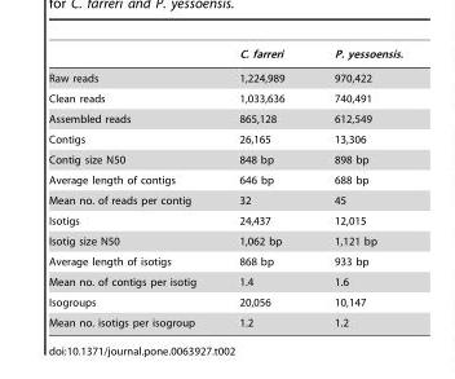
<table><thead><tr><td></td><td>C. farreri</td><td>P. yessoensis.</td></tr></thead><tbody><tr><td>Raw reads</td><td>1,224,989</td><td>970,422</td></tr><tr><td>Clean reads</td><td>1,033,636</td><td>740,491</td></tr><tr><td>Assembled reads</td><td>865,128</td><td>612,549</td></tr><tr><td>Contigs</td><td>26,165</td><td>13,306</td></tr><tr><td>Contig size N50</td><td>848 bp</td><td>898 bp</td></tr><tr><td>Average length of contigs</td><td>646 bp</td><td>688 bp</td></tr><tr><td>Mean no. of reads per contig</td><td>32</td><td>45</td></tr><tr><td>Isotigs</td><td>24,437</td><td>12,015</td></tr><tr><td>Isotig size N50</td><td>1,062 bp</td><td>1,121 bp</td></tr><tr><td>Average length of isotigs</td><td>868 bp</td><td>933 bp</td></tr><tr><td>Mean no. of contigs per isotig</td><td>1.4</td><td>1.6</td></tr><tr><td>Isogroups</td><td>20,056</td><td>10,147</td></tr><tr><td>Mean no. isotigs per isogroup</td><td>1.2</td><td>1.2</td></tr></tbody></table>